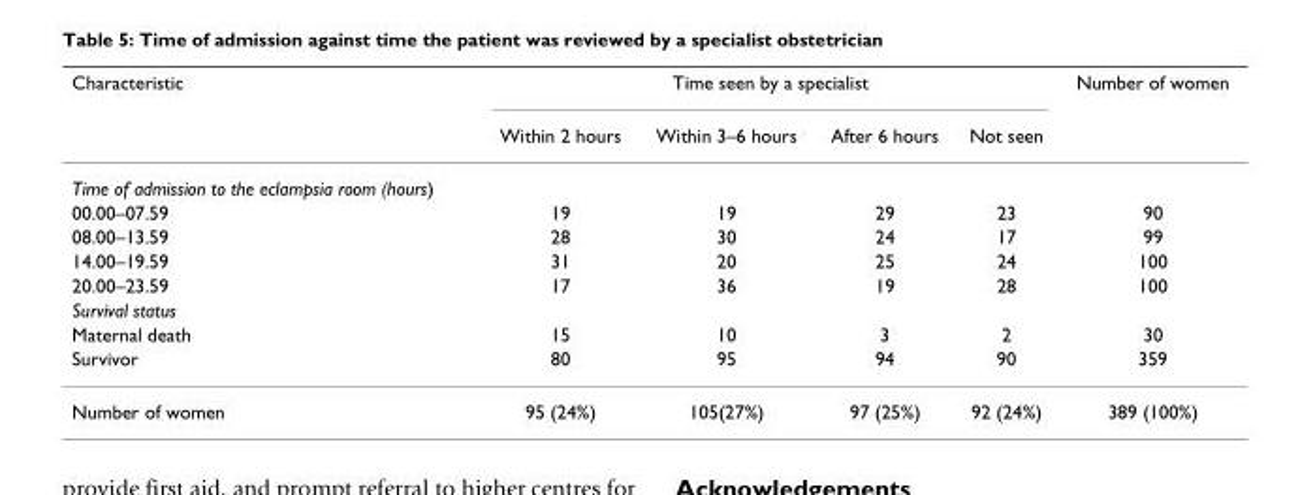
<table><thead><tr><td rowspan="2">Characteristic</td><td colspan="4">Time seen by a specialist</td><td rowspan="2">Number of women</td></tr><tr><td>Within 2 hours</td><td>Within 3–6 hours</td><td>After 6 hours</td><td>Not seen</td></tr></thead><tbody><tr><td colspan="6">Time of admission to the eclampsia room (hours)</td></tr><tr><td>00.00–07.59</td><td>19</td><td>19</td><td>29</td><td>23</td><td>90</td></tr><tr><td>08.00–13.59</td><td>28</td><td>30</td><td>24</td><td>17</td><td>99</td></tr><tr><td>14.00–19.59</td><td>31</td><td>20</td><td>25</td><td>24</td><td>100</td></tr><tr><td>20.00–23.59</td><td>17</td><td>36</td><td>19</td><td>28</td><td>100</td></tr><tr><td colspan="6">Survival status</td></tr><tr><td>Maternal death</td><td>15</td><td>10</td><td>3</td><td>2</td><td>30</td></tr><tr><td>Survivor</td><td>80</td><td>95</td><td>94</td><td>90</td><td>359</td></tr><tr><td>Number of women</td><td>95 (24%)</td><td>105(27%)</td><td>97 (25%)</td><td>92 (24%)</td><td>389 (100%)</td></tr></tbody></table>